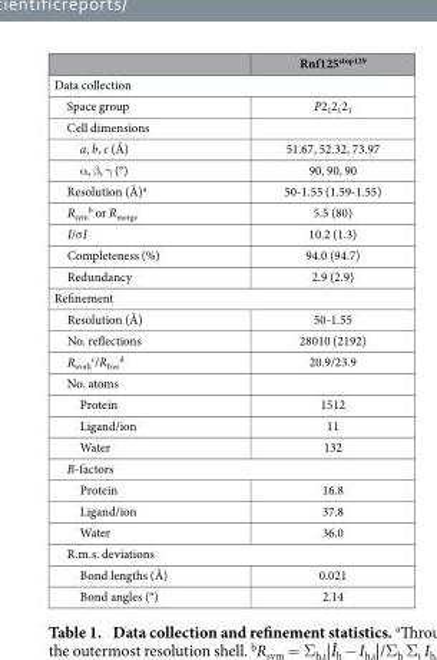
<table><thead><tr><td></td><td>Rnf125<sup>stop129</sup></td></tr></thead><tbody><tr><td colspan="2">Data collection</td></tr><tr><td>Space group</td><td>P2<sub>1</sub>2<sub>1</sub>2<sub>1</sub></td></tr><tr><td colspan="2">Cell dimensions</td></tr><tr><td>a, b, c (Å)</td><td>51.67, 52.32, 73.97</td></tr><tr><td>α , β , γ (°)</td><td>90, 90, 90</td></tr><tr><td>Resolution (Å)<sup>a</sup></td><td>50-1.55 (1.59-1.55)</td></tr><tr><td>R<sub>sym</sub> <sup>b</sup> or R<sub>merge</sub></td><td>5.5 (80)</td></tr><tr><td>I/σ I</td><td>10.2 (1.3)</td></tr><tr><td>Completeness (%)</td><td>94.0 (94.7)</td></tr><tr><td>Redundancy</td><td>2.9 (2.9)</td></tr><tr><td colspan="2">Refinement</td></tr><tr><td>Resolution (Å)</td><td>50-1.55</td></tr><tr><td>No. reflections</td><td>28010 (2192)</td></tr><tr><td>R<sub>work</sub> <sup>c</sup>/R<sub>free</sub> <sup>d</sup></td><td>20.9/23.9</td></tr><tr><td colspan="2">No. atoms</td></tr><tr><td>Protein</td><td>1512</td></tr><tr><td>Ligand/ion</td><td>11</td></tr><tr><td>Water</td><td>132</td></tr><tr><td colspan="2">B-factors</td></tr><tr><td>Protein</td><td>16.8</td></tr><tr><td>Ligand/ion</td><td>37.8</td></tr><tr><td>Water</td><td>36.0</td></tr><tr><td colspan="2">R.m.s. deviations</td></tr><tr><td>Bond lengths (Å)</td><td>0.021</td></tr><tr><td>Bond angles (°)</td><td>2.14</td></tr></tbody></table>